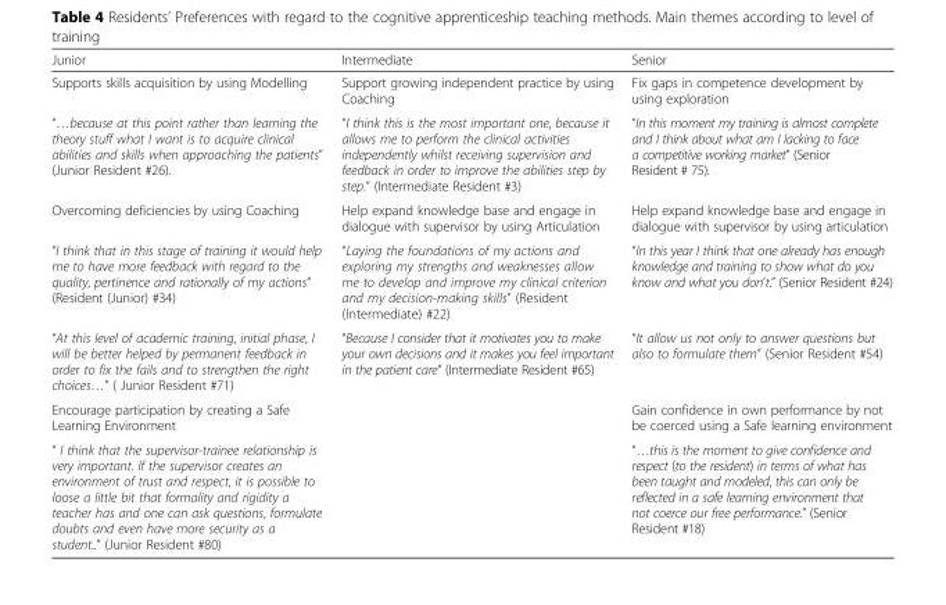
<table><thead><tr><td>Junior</td><td>Intermediate</td><td>Senior</td></tr></thead><tbody><tr><td>Supports skills acquisition by using Modelling</td><td>Support growing independent practice by using Coaching</td><td>Fix gaps in competence development by using exploration</td></tr><tr><td>“…because at this point rather than learning the theory stuff what I want is to acquire clinical abilities and skills when approaching the patients” (Junior Resident #26).</td><td>“I think this is the most important one, because it allows me to perform the clinical activities independently whilst receiving supervision and feedback in order to improve the abilities step by step.” (Intermediate Resident #3)</td><td>“In this moment my training is almost complete and I think about what am I lacking to face a competitive working market” (Senior Resident # 75).</td></tr><tr><td>Overcoming deficiencies by using Coaching</td><td>Help expand knowledge base and engage in dialogue with supervisor by using Articulation</td><td>Help expand knowledge base and engage in dialogue with supervisor by using articulation</td></tr><tr><td>“I think that in this stage of training it would help me to have more feedback with regard to the quality, pertinence and rationally of my actions” (Resident (Junior) #34)</td><td>“Laying the foundations of my actions and exploring my strengths and weaknesses allow me to develop and improve my clinical criterion and my decision-making skills” (Resident (Intermediate) #22)</td><td>“In this year I think that one already has enough knowledge and training to show what do you know and what you don’t.” (Senior Resident #24)</td></tr><tr><td>“At this level of academic training, initial phase, I will be better helped by permanent feedback in order to fix the fails and to strengthen the right choices…” ( Junior Resident #71)</td><td rowspan="3">“Because I consider that it motivates you to make your own decisions and it makes you feel important in the patient care” (Intermediate Resident #65)</td><td>“It allow us not only to answer questions but also to formulate them” (Senior Resident #54)</td></tr><tr><td>Encourage participation by creating a Safe Learning Environment</td><td>Gain confidence in own performance by not be coerced using a Safe learning environment</td></tr><tr><td>“ I think that the supervisor-trainee relationship is very important. If the supervisor creates an environment of trust and respect, it is possible to loose a little bit that formality and rigidity a teacher has and one can ask questions, formulate doubts and even have more security as a student..” (Junior Resident #80)</td><td>“…this is the moment to give confidence and respect (to the resident) in terms of what has been taught and modeled, this can only be reflected in a safe learning environment that not coerce our free performance.” (Senior Resident #18)</td></tr></tbody></table>